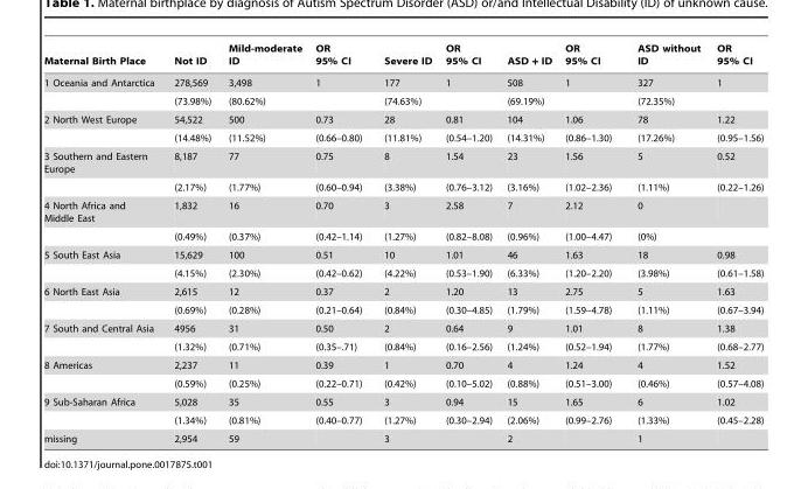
<table><thead><tr><td>Maternal Birth Place</td><td>Not ID</td><td>Mild-moderate ID</td><td>OR 95% CI</td><td>Severe ID</td><td>OR 95% CI</td><td>ASD + ID</td><td>OR 95% CI</td><td>ASD without ID</td><td>OR 95% CI</td></tr></thead><tbody><tr><td rowspan="2">1 Oceania and Antarctica</td><td>278,569</td><td>3,498</td><td>1</td><td>177</td><td>1</td><td>508</td><td>1</td><td>327</td><td>1</td></tr><tr><td>(73.98%)</td><td>(80.62%)</td><td></td><td>(74.63%)</td><td></td><td>(69.19%)</td><td></td><td>(72.35%)</td><td></td></tr><tr><td rowspan="2">2 North West Europe</td><td>54,522</td><td>500</td><td>0.73</td><td>28</td><td>0.81</td><td>104</td><td>1.06</td><td>78</td><td>1.22</td></tr><tr><td>(14.48%)</td><td>(11.52%)</td><td>(0.66–0.80)</td><td>(11.81%)</td><td>(0.54–1.20)</td><td>(14.31%)</td><td>(0.86–1.30)</td><td>(17.26%)</td><td>(0.95–1.56)</td></tr><tr><td rowspan="2">3 Southern and Eastern Europe</td><td>8,187</td><td>77</td><td>0.75</td><td>8</td><td>1.54</td><td>23</td><td>1.56</td><td>5</td><td>0.52</td></tr><tr><td>(2.17%)</td><td>(1.77%)</td><td>(0.60–0.94)</td><td>(3.38%)</td><td>(0.76–3.12)</td><td>(3.16%)</td><td>(1.02–2.36)</td><td>(1.11%)</td><td>(0.22–1.26)</td></tr><tr><td rowspan="2">4 North Africa and Middle East</td><td>1,832</td><td>16</td><td>0.70</td><td>3</td><td>2.58</td><td>7</td><td>2.12</td><td>0</td><td></td></tr><tr><td>(0.49%)</td><td>(0.37%)</td><td>(0.42–1.14)</td><td>(1.27%)</td><td>(0.82–8.08)</td><td>(0.96%)</td><td>(1.00–4.47)</td><td>(0%)</td><td></td></tr><tr><td rowspan="2">5 South East Asia</td><td>15,629</td><td>100</td><td>0.51</td><td>10</td><td>1.01</td><td>46</td><td>1.63</td><td>18</td><td>0.98</td></tr><tr><td>(4.15%)</td><td>(2.30%)</td><td>(0.42–0.62)</td><td>(4.22%)</td><td>(0.53–1.90)</td><td>(6.33%)</td><td>(1.20–2.20)</td><td>(3.98%)</td><td>(0.61–1.58)</td></tr><tr><td rowspan="2">6 North East Asia</td><td>2,615</td><td>12</td><td>0.37</td><td>2</td><td>1.20</td><td>13</td><td>2.75</td><td>5</td><td>1.63</td></tr><tr><td>(0.69%)</td><td>(0.28%)</td><td>(0.21–0.64)</td><td>(0.84%)</td><td>(0.30–4.85)</td><td>(1.79%)</td><td>(1.59–4.78)</td><td>(1.11%)</td><td>(0.67–3.94)</td></tr><tr><td rowspan="2">7 South and Central Asia</td><td>4956</td><td>31</td><td>0.50</td><td>2</td><td>0.64</td><td>9</td><td>1.01</td><td>8</td><td>1.38</td></tr><tr><td>(1.32%)</td><td>(0.71%)</td><td>(0.35–.71)</td><td>(0.84%)</td><td>(0.16–2.56)</td><td>(1.24%)</td><td>(0.52–1.94)</td><td>(1.77%)</td><td>(0.68–2.77)</td></tr><tr><td rowspan="2">8 Americas</td><td>2,237</td><td>11</td><td>0.39</td><td>1</td><td>0.70</td><td>4</td><td>1.24</td><td>4</td><td>1.52</td></tr><tr><td>(0.59%)</td><td>(0.25%)</td><td>(0.22–0.71)</td><td>(0.42%)</td><td>(0.10–5.02)</td><td>(0.88%)</td><td>(0.51–3.00)</td><td>(0.46%)</td><td>(0.57–4.08)</td></tr><tr><td rowspan="2">9 Sub-Saharan Africa</td><td>5,028</td><td>35</td><td>0.55</td><td>3</td><td>0.94</td><td>15</td><td>1.65</td><td>6</td><td>1.02</td></tr><tr><td>(1.34%)</td><td>(0.81%)</td><td>(0.40–0.77)</td><td>(1.27%)</td><td>(0.30–2.94)</td><td>(2.06%)</td><td>(0.99–2.76)</td><td>(1.33%)</td><td>(0.45–2.28)</td></tr><tr><td>missing</td><td>2,954</td><td>59</td><td></td><td>3</td><td></td><td>2</td><td></td><td>1</td><td></td></tr></tbody></table>